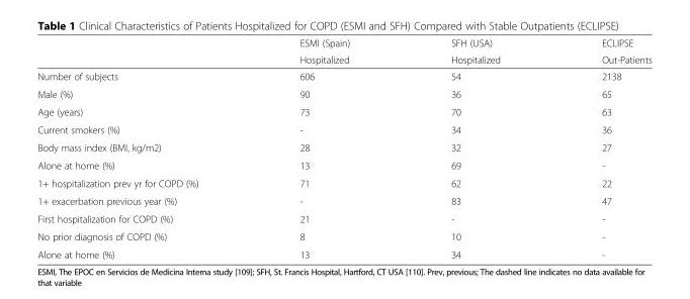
<table><thead><tr><td rowspan="2"></td><td rowspan="2">ESMI (Spain) Hospitalized</td><td rowspan="2">SFH (USA) Hospitalized</td><td rowspan="2">ECLIPSE Out-Patients</td></tr><tr></tr></thead><tbody><tr><td>Number of subjects</td><td>606</td><td>54</td><td>2138</td></tr><tr><td>Male (%)</td><td>90</td><td>36</td><td>65</td></tr><tr><td>Age (years)</td><td>73</td><td>70</td><td>63</td></tr><tr><td>Current smokers (%)</td><td>-</td><td>34</td><td>36</td></tr><tr><td>Body mass index (BMI, kg/m2)</td><td>28</td><td>32</td><td>27</td></tr><tr><td>Alone at home (%)</td><td>13</td><td>69</td><td>-</td></tr><tr><td>1+ hospitalization prev yr for COPD (%)</td><td>71</td><td>62</td><td>22</td></tr><tr><td>1+ exacerbation previous year (%)</td><td>-</td><td>83</td><td>47</td></tr><tr><td>First hospitalization for COPD (%)</td><td>21</td><td>-</td><td>-</td></tr><tr><td>No prior diagnosis of COPD (%)</td><td>8</td><td>10</td><td>-</td></tr><tr><td>Alone at home (%)</td><td>13</td><td>34</td><td>-</td></tr></tbody></table>